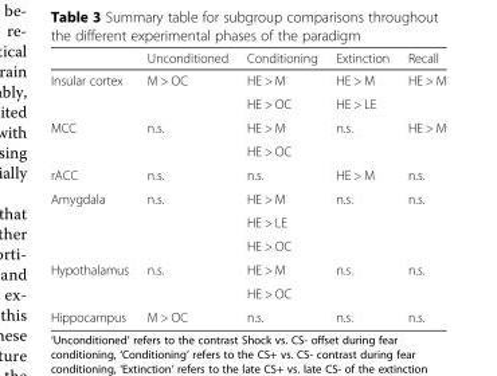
<table><thead><tr><td></td><td>Unconditioned</td><td>Conditioning</td><td>Extinction</td><td>Recall</td></tr></thead><tbody><tr><td rowspan="2">Insular cortex</td><td rowspan="2">M &gt; OC</td><td>HE &gt; M</td><td>HE &gt; M</td><td rowspan="2">HE &gt; M</td></tr><tr><td>HE &gt; OC</td><td>HE &gt; LE</td></tr><tr><td rowspan="2">MCC</td><td rowspan="2">n.s.</td><td>HE &gt; M</td><td rowspan="2">n.s.</td><td rowspan="2">HE &gt; M</td></tr><tr><td>HE &gt; OC</td></tr><tr><td>rACC</td><td>n.s.</td><td>n.s.</td><td>HE &gt; M</td><td>n.s.</td></tr><tr><td rowspan="3">Amygdala</td><td rowspan="3">n.s.</td><td>HE &gt; M</td><td rowspan="3">n.s.</td><td rowspan="3">n.s.</td></tr><tr><td>HE &gt; LE</td></tr><tr><td>HE &gt; OC</td></tr><tr><td rowspan="2">Hypothalamus</td><td rowspan="2">n.s.</td><td>HE &gt; M</td><td rowspan="2">n.s.</td><td rowspan="2">n.s.</td></tr><tr><td>HE &gt; OC</td></tr><tr><td>Hippocampus</td><td>M &gt; OC</td><td>n.s.</td><td>n.s.</td><td>n.s.</td></tr></tbody></table>